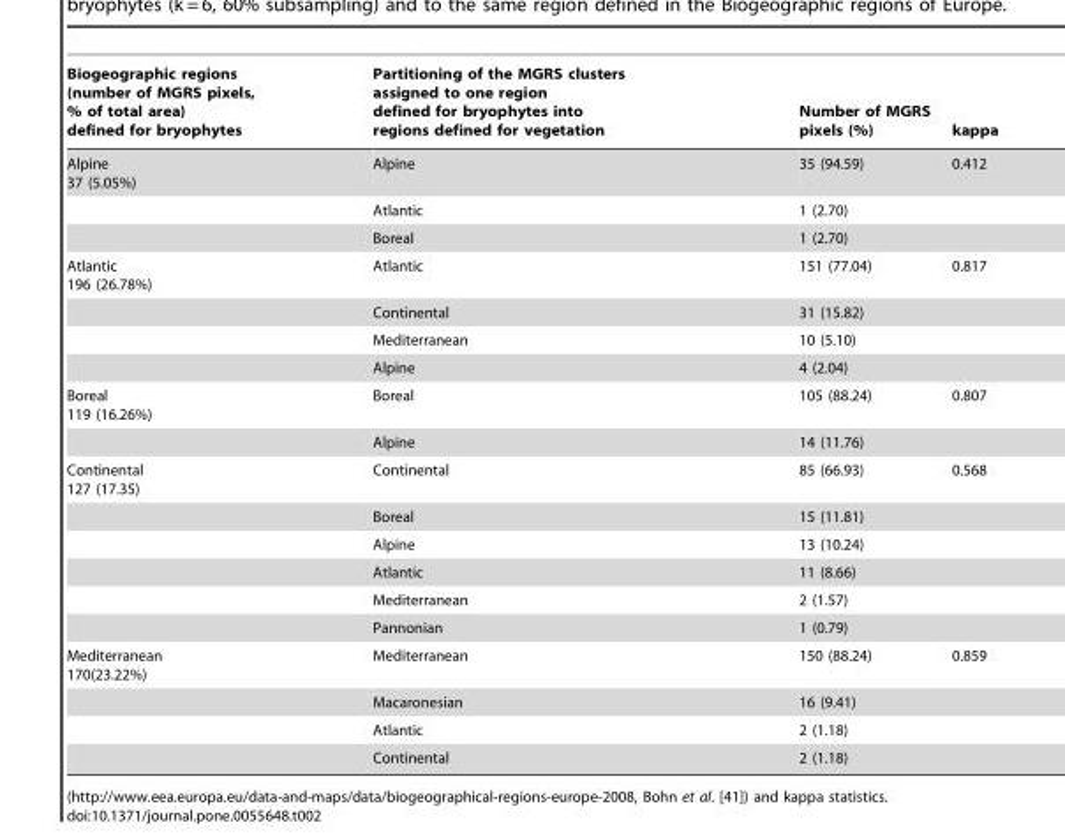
<table><thead><tr><td>Biogeographic regions (number of MGRS pixels, % of total area) defined for bryophytes</td><td>Partitioning of the MGRS clusters assigned to one region defined for bryophytes into regions defined for vegetation</td><td>Number of MGRS pixels (%)</td><td>kappa</td></tr></thead><tbody><tr><td rowspan="3">Alpine 37 (5.05%)</td><td>Alpine</td><td>35 (94.59)</td><td>0.412</td></tr><tr><td>Atlantic</td><td>1 (2.70)</td><td></td></tr><tr><td>Boreal</td><td>1 (2.70)</td><td></td></tr><tr><td rowspan="4">Atlantic 196 (26.78%)</td><td>Atlantic</td><td>151 (77.04)</td><td>0.817</td></tr><tr><td>Continental</td><td>31 (15.82)</td><td></td></tr><tr><td>Mediterranean</td><td>10 (5.10)</td><td></td></tr><tr><td>Alpine</td><td>4 (2.04)</td><td></td></tr><tr><td rowspan="2">Boreal 119 (16.26%)</td><td>Boreal</td><td>105 (88.24)</td><td>0.807</td></tr><tr><td>Alpine</td><td>14 (11.76)</td><td></td></tr><tr><td rowspan="6">Continental 127 (17.35)</td><td>Continental</td><td>85 (66.93)</td><td>0.568</td></tr><tr><td>Boreal</td><td>15 (11.81)</td><td></td></tr><tr><td>Alpine</td><td>13 (10.24)</td><td></td></tr><tr><td>Atlantic</td><td>11 (8.66)</td><td></td></tr><tr><td>Mediterranean</td><td>2 (1.57)</td><td></td></tr><tr><td>Pannonian</td><td>1 (0.79)</td><td></td></tr><tr><td rowspan="4">Mediterranean 170(23.22%)</td><td>Mediterranean</td><td>150 (88.24)</td><td>0.859</td></tr><tr><td>Macaronesian</td><td>16 (9.41)</td><td></td></tr><tr><td>Atlantic</td><td>2 (1.18)</td><td></td></tr><tr><td>Continental</td><td>2 (1.18)</td><td></td></tr></tbody></table>